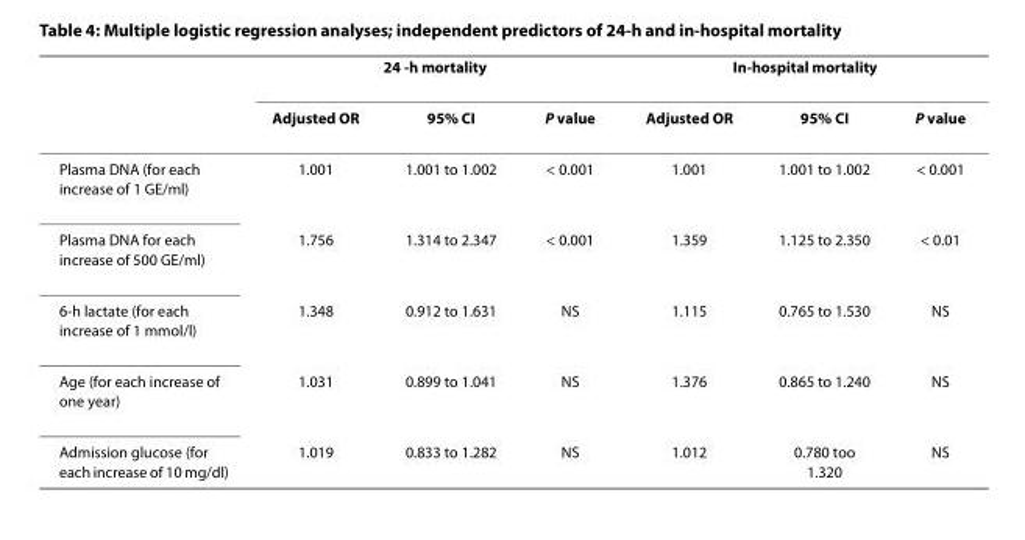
<table><thead><tr><td rowspan="2"></td><td colspan="3">24 -h mortality</td><td colspan="3">In-hospital mortality</td></tr><tr><td>Adjusted OR</td><td>95% CI</td><td>P value</td><td>Adjusted OR</td><td>95% CI</td><td>P value</td></tr></thead><tbody><tr><td>Plasma DNA (for each increase of 1 GE/ml)</td><td>1.001</td><td>1.001 to 1.002</td><td>&lt; 0.001</td><td>1.001</td><td>1.001 to 1.002</td><td>&lt; 0.001</td></tr><tr><td>Plasma DNA for each increase of 500 GE/ml)</td><td>1.756</td><td>1.314 to 2.347</td><td>&lt; 0.001</td><td>1.359</td><td>1.125 to 2.350</td><td>&lt; 0.01</td></tr><tr><td>6-h lactate (for each increase of 1 mmol/l)</td><td>1.348</td><td>0.912 to 1.631</td><td>NS</td><td>1.115</td><td>0.765 to 1.530</td><td>NS</td></tr><tr><td>Age (for each increase of one year)</td><td>1.031</td><td>0.899 to 1.041</td><td>NS</td><td>1.376</td><td>0.865 to 1.240</td><td>NS</td></tr><tr><td>Admission glucose (for each increase of 10 mg/dl)</td><td>1.019</td><td>0.833 to 1.282</td><td>NS</td><td>1.012</td><td>0.780 too 1.320</td><td>NS</td></tr></tbody></table>